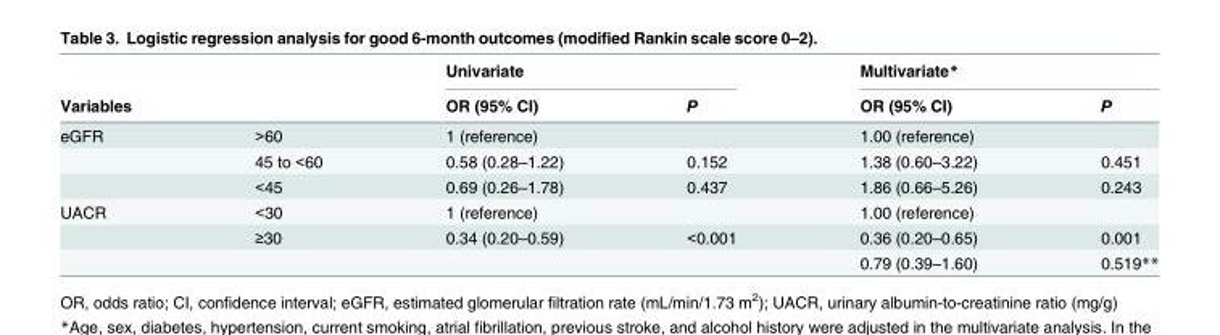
<table><thead><tr><td rowspan="2">Variables</td><td rowspan="2"></td><td colspan="2">Univariate</td><td colspan="2">Multivariate*</td></tr><tr><td>OR (95% CI)</td><td>P</td><td>OR (95% CI)</td><td>P</td></tr></thead><tbody><tr><td rowspan="3">eGFR</td><td>&gt;60</td><td>1 (reference)</td><td></td><td>1.00 (reference)</td><td></td></tr><tr><td>45 to &lt;60</td><td>0.58 (0.28–1.22)</td><td>0.152</td><td>1.38 (0.60–3.22)</td><td>0.451</td></tr><tr><td>&lt;45</td><td>0.69 (0.26–1.78)</td><td>0.437</td><td>1.86 (0.66–5.26)</td><td>0.243</td></tr><tr><td rowspan="3">UACR</td><td>&lt;30</td><td>1 (reference)</td><td></td><td>1.00 (reference)</td><td></td></tr><tr><td>≥30</td><td>0.34 (0.20–0.59)</td><td>&lt;0.001</td><td>0.36 (0.20–0.65)</td><td>0.001</td></tr><tr><td></td><td></td><td></td><td>0.79 (0.39–1.60)</td><td>0.519**</td></tr></tbody></table>